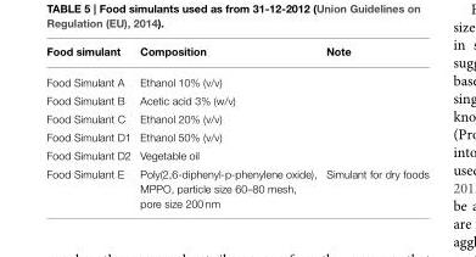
<table><thead><tr><td>Food simulant</td><td>Composition</td><td>Note</td></tr></thead><tbody><tr><td>Food Simulant A</td><td>Ethanol 10% (v/v)</td><td></td></tr><tr><td>Food Simulant B</td><td>Acetic acid 3% (w/v)</td><td></td></tr><tr><td>Food Simulant C</td><td>Ethanol 20% (v/v)</td><td></td></tr><tr><td>Food Simulant D1</td><td>Ethanol 50% (v/v)</td><td></td></tr><tr><td>Food Simulant D2</td><td>Vegetable oil</td><td></td></tr><tr><td>Food Simulant E</td><td>Poly(2,6-diphenyl-p-phenylene oxide), MPPO, particle size 60–80 mesh, pore size 200 nm</td><td>Simulant for dry foods</td></tr></tbody></table>